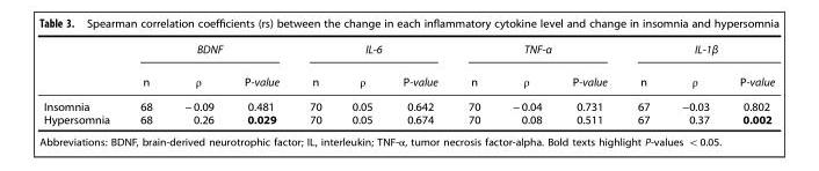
<table><thead><tr><td rowspan="2"></td><td colspan="3">BDNF</td><td colspan="3">IL-6</td><td colspan="3">TNF-α</td><td colspan="3">IL-1β</td></tr><tr><td>n</td><td>ρ</td><td>P-value</td><td>n</td><td>ρ</td><td>P-value</td><td>n</td><td>ρ</td><td>P-value</td><td>n</td><td>ρ</td><td>P-value</td></tr></thead><tbody><tr><td>Insomnia</td><td>68</td><td>− 0.09</td><td>0.481</td><td>70</td><td>0.05</td><td>0.642</td><td>70</td><td>− 0.04</td><td>0.731</td><td>67</td><td>−0.03</td><td>0.802</td></tr><tr><td>Hypersomnia</td><td>68</td><td>0.26</td><td>0.029</td><td>70</td><td>0.05</td><td>0.674</td><td>70</td><td>0.08</td><td>0.511</td><td>67</td><td>0.37</td><td>0.002</td></tr></tbody></table>